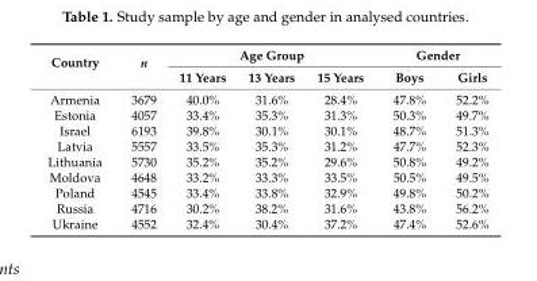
<table><thead><tr><td rowspan="2">Country</td><td rowspan="2">n</td><td colspan="3">Age Group</td><td colspan="2">Gender</td></tr><tr><td>11 Years</td><td>13 Years</td><td>15 Years</td><td>Boys</td><td>Girls</td></tr></thead><tbody><tr><td>Armenia</td><td>3679</td><td>40.0%</td><td>31.6%</td><td>28.4%</td><td>47.8%</td><td>52.2%</td></tr><tr><td>Estonia</td><td>4057</td><td>33.4%</td><td>35.3%</td><td>31.3%</td><td>50.3%</td><td>49.7%</td></tr><tr><td>Israel</td><td>6193</td><td>39.8%</td><td>30.1%</td><td>30.1%</td><td>48.7%</td><td>51.3%</td></tr><tr><td>Latvia</td><td>5557</td><td>33.5%</td><td>35.3%</td><td>31.2%</td><td>47.7%</td><td>52.3%</td></tr><tr><td>Lithuania</td><td>5730</td><td>35.2%</td><td>35.2%</td><td>29.6%</td><td>50.8%</td><td>49.2%</td></tr><tr><td>Moldova</td><td>4648</td><td>33.2%</td><td>33.3%</td><td>33.5%</td><td>50.5%</td><td>49.5%</td></tr><tr><td>Poland</td><td>4545</td><td>33.4%</td><td>33.8%</td><td>32.9%</td><td>49.8%</td><td>50.2%</td></tr><tr><td>Russia</td><td>4716</td><td>30.2%</td><td>38.2%</td><td>31.6%</td><td>43.8%</td><td>56.2%</td></tr><tr><td>Ukraine</td><td>4552</td><td>32.4%</td><td>30.4%</td><td>37.2%</td><td>47.4%</td><td>52.6%</td></tr></tbody></table>